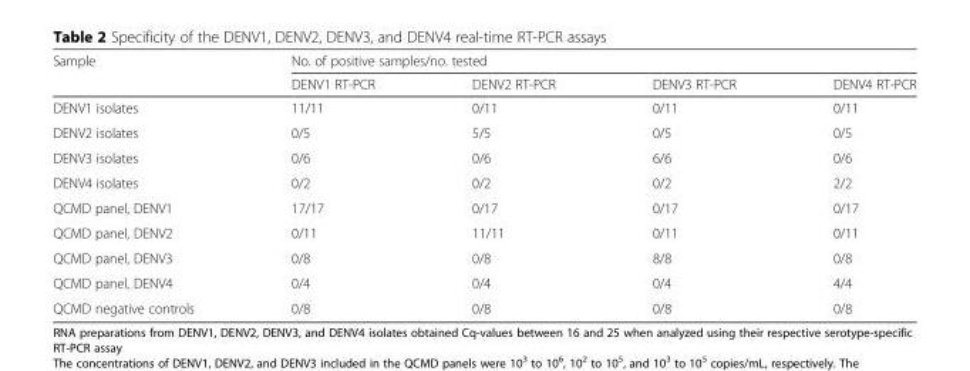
<table><thead><tr><td rowspan="2">Sample</td><td colspan="4">No. of positive samples/no. tested</td></tr><tr><td>DENV1 RT-PCR</td><td>DENV2 RT-PCR</td><td>DENV3 RT-PCR</td><td>DENV4 RT-PCR</td></tr></thead><tbody><tr><td>DENV1 isolates</td><td>11/11</td><td>0/11</td><td>0/11</td><td>0/11</td></tr><tr><td>DENV2 isolates</td><td>0/5</td><td>5/5</td><td>0/5</td><td>0/5</td></tr><tr><td>DENV3 isolates</td><td>0/6</td><td>0/6</td><td>6/6</td><td>0/6</td></tr><tr><td>DENV4 isolates</td><td>0/2</td><td>0/2</td><td>0/2</td><td>2/2</td></tr><tr><td>QCMD panel, DENV1</td><td>17/17</td><td>0/17</td><td>0/17</td><td>0/17</td></tr><tr><td>QCMD panel, DENV2</td><td>0/11</td><td>11/11</td><td>0/11</td><td>0/11</td></tr><tr><td>QCMD panel, DENV3</td><td>0/8</td><td>0/8</td><td>8/8</td><td>0/8</td></tr><tr><td>QCMD panel, DENV4</td><td>0/4</td><td>0/4</td><td>0/4</td><td>4/4</td></tr><tr><td>QCMD negative controls</td><td>0/8</td><td>0/8</td><td>0/8</td><td>0/8</td></tr></tbody></table>